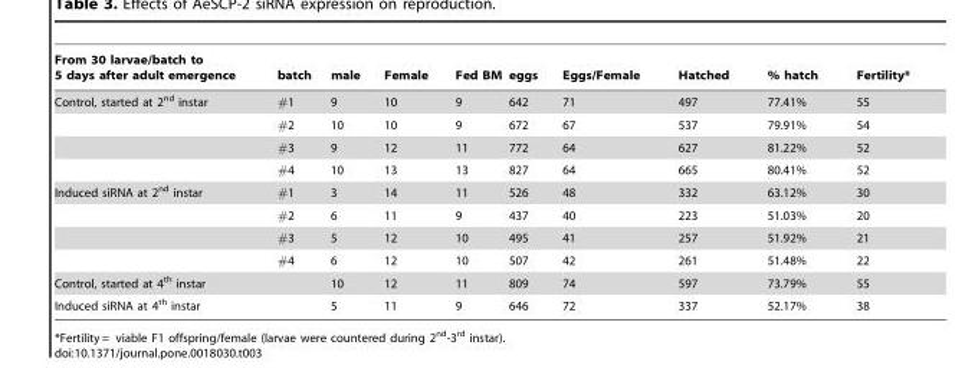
<table><thead><tr><td>From 30 larvae/batch to 5 days after adult emergence</td><td>batch</td><td>male</td><td>Female</td><td>Fed BM</td><td>eggs</td><td>Eggs/Female</td><td>Hatched</td><td>% hatch</td><td>Fertility*</td></tr></thead><tbody><tr><td rowspan="4">Control, started at 2<sup>nd</sup> instar</td><td>#1</td><td>9</td><td>10</td><td>9</td><td>642</td><td>71</td><td>497</td><td>77.41%</td><td>55</td></tr><tr><td>#2</td><td>10</td><td>10</td><td>9</td><td>672</td><td>67</td><td>537</td><td>79.91%</td><td>54</td></tr><tr><td>#3</td><td>9</td><td>12</td><td>11</td><td>772</td><td>64</td><td>627</td><td>81.22%</td><td>52</td></tr><tr><td>#4</td><td>10</td><td>13</td><td>13</td><td>827</td><td>64</td><td>665</td><td>80.41%</td><td>52</td></tr><tr><td rowspan="4">Induced siRNA at 2<sup>nd</sup> instar</td><td>#1</td><td>3</td><td>14</td><td>11</td><td>526</td><td>48</td><td>332</td><td>63.12%</td><td>30</td></tr><tr><td>#2</td><td>6</td><td>11</td><td>9</td><td>437</td><td>40</td><td>223</td><td>51.03%</td><td>20</td></tr><tr><td>#3</td><td>5</td><td>12</td><td>10</td><td>495</td><td>41</td><td>257</td><td>51.92%</td><td>21</td></tr><tr><td>#4</td><td>6</td><td>12</td><td>10</td><td>507</td><td>42</td><td>261</td><td>51.48%</td><td>22</td></tr><tr><td colspan="2">Control, started at 4<sup>th</sup> instar</td><td>10</td><td>12</td><td>11</td><td>809</td><td>74</td><td>597</td><td>73.79%</td><td>55</td></tr><tr><td colspan="2">Induced siRNA at 4<sup>th</sup> instar</td><td>5</td><td>11</td><td>9</td><td>646</td><td>72</td><td>337</td><td>52.17%</td><td>38</td></tr></tbody></table>